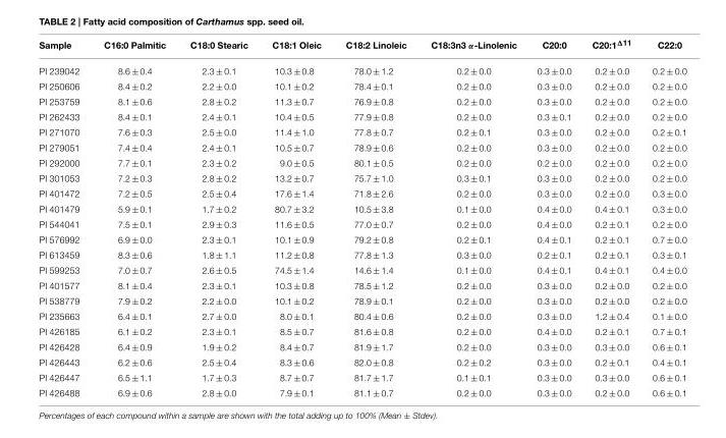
<table><thead><tr><td>Sample</td><td>C16:0 Palmitic</td><td>C18:0 Stearic</td><td>C18:1 Oleic</td><td>C18:2 Linoleic</td><td>C18:3n3 α-Linolenic</td><td>C20:0</td><td>C20:1<sup>Δ11</sup></td><td>C22:0</td></tr></thead><tbody><tr><td>PI 239042</td><td>8.6 ± 0.4</td><td>2.3 ± 0.1</td><td>10.3 ± 0.8</td><td>78.0 ± 1.2</td><td>0.2 ± 0.0</td><td>0.3 ± 0.0</td><td>0.2 ± 0.0</td><td>0.2 ± 0.0</td></tr><tr><td>PI 250606</td><td>8.4 ± 0.2</td><td>2.2 ± 0.0</td><td>10.1 ± 0.2</td><td>78.4 ± 0.1</td><td>0.2 ± 0.0</td><td>0.3 ± 0.0</td><td>0.2 ± 0.0</td><td>0.2 ± 0.0</td></tr><tr><td>PI 253759</td><td>8.1 ± 0.6</td><td>2.8 ± 0.2</td><td>11.3 ± 0.7</td><td>76.9 ± 0.8</td><td>0.2 ± 0.0</td><td>0.3 ± 0.0</td><td>0.2 ± 0.0</td><td>0.2 ± 0.0</td></tr><tr><td>PI 262433</td><td>8.4 ± 0.1</td><td>2.4 ± 0.1</td><td>10.4 ± 0.5</td><td>77.9 ± 0.8</td><td>0.2 ± 0.0</td><td>0.3 ± 0.1</td><td>0.2 ± 0.0</td><td>0.2 ± 0.0</td></tr><tr><td>PI 271070</td><td>7.6 ± 0.3</td><td>2.5 ± 0.0</td><td>11.4 ± 1.0</td><td>77.8 ± 0.7</td><td>0.2 ± 0.1</td><td>0.3 ± 0.0</td><td>0.2 ± 0.0</td><td>0.2 ± 0.1</td></tr><tr><td>PI 279051</td><td>7.4 ± 0.4</td><td>2.4 ± 0.1</td><td>10.5 ± 0.7</td><td>78.9 ± 0.6</td><td>0.2 ± 0.0</td><td>0.3 ± 0.0</td><td>0.2 ± 0.0</td><td>0.2 ± 0.0</td></tr><tr><td>PI 292000</td><td>7.7 ± 0.1</td><td>2.3 ± 0.2</td><td>9.0 ± 0.5</td><td>80.1 ± 0.5</td><td>0.2 ± 0.0</td><td>0.2 ± 0.0</td><td>0.2 ± 0.0</td><td>0.2 ± 0.0</td></tr><tr><td>PI 301053</td><td>7.2 ± 0.3</td><td>2.8 ± 0.2</td><td>13.2 ± 0.7</td><td>75.7 ± 1.0</td><td>0.3 ± 0.1</td><td>0.3 ± 0.0</td><td>0.2 ± 0.0</td><td>0.2 ± 0.0</td></tr><tr><td>PI 401472</td><td>7.2 ± 0.5</td><td>2.5 ± 0.4</td><td>17.6 ± 1.4</td><td>71.8 ± 2.6</td><td>0.2 ± 0.0</td><td>0.3 ± 0.0</td><td>0.2 ± 0.0</td><td>0.3 ± 0.0</td></tr><tr><td>PI 401479</td><td>5.9 ± 0.1</td><td>1.7 ± 0.2</td><td>80.7 ± 3.2</td><td>10.5 ± 3.8</td><td>0.1 ± 0.0</td><td>0.4 ± 0.0</td><td>0.4 ± 0.1</td><td>0.3 ± 0.0</td></tr><tr><td>PI 544041</td><td>7.5 ± 0.1</td><td>2.9 ± 0.3</td><td>11.6 ± 0.5</td><td>77.0 ± 0.7</td><td>0.2 ± 0.0</td><td>0.4 ± 0.0</td><td>0.2 ± 0.1</td><td>0.2 ± 0.0</td></tr><tr><td>PI 576992</td><td>6.9 ± 0.0</td><td>2.3 ± 0.1</td><td>10.1 ± 0.9</td><td>79.2 ± 0.8</td><td>0.2 ± 0.1</td><td>0.4 ± 0.1</td><td>0.2 ± 0.1</td><td>0.7 ± 0.0</td></tr><tr><td>PI 613459</td><td>8.3 ± 0.6</td><td>1.8 ± 1.1</td><td>11.2 ± 0.8</td><td>77.8 ± 1.3</td><td>0.3 ± 0.0</td><td>0.2 ± 0.1</td><td>0.2 ± 0.1</td><td>0.3 ± 0.1</td></tr><tr><td>PI 599253</td><td>7.0 ± 0.7</td><td>2.6 ± 0.5</td><td>74.5 ± 1.4</td><td>14.6 ± 1.4</td><td>0.1 ± 0.0</td><td>0.4 ± 0.1</td><td>0.4 ± 0.1</td><td>0.4 ± 0.0</td></tr><tr><td>PI 401577</td><td>8.1 ± 0.4</td><td>2.3 ± 0.1</td><td>10.3 ± 0.8</td><td>78.5 ± 1.2</td><td>0.2 ± 0.0</td><td>0.3 ± 0.0</td><td>0.2 ± 0.0</td><td>0.2 ± 0.0</td></tr><tr><td>PI 538779</td><td>7.9 ± 0.2</td><td>2.2 ± 0.0</td><td>10.1 ± 0.2</td><td>78.9 ± 0.1</td><td>0.2 ± 0.0</td><td>0.3 ± 0.0</td><td>0.2 ± 0.0</td><td>0.2 ± 0.0</td></tr><tr><td>PI 235663</td><td>6.4 ± 0.1</td><td>2.7 ± 0.0</td><td>8.0 ± 0.1</td><td>80.4 ± 0.6</td><td>0.2 ± 0.0</td><td>0.3 ± 0.0</td><td>1.2 ± 0.4</td><td>0.1 ± 0.0</td></tr><tr><td>PI 426185</td><td>6.1 ± 0.2</td><td>2.3 ± 0.1</td><td>8.5 ± 0.7</td><td>81.6 ± 0.8</td><td>0.2 ± 0.0</td><td>0.4 ± 0.0</td><td>0.2 ± 0.1</td><td>0.7 ± 0.1</td></tr><tr><td>PI 426428</td><td>6.4 ± 0.9</td><td>1.9 ± 0.2</td><td>8.4 ± 0.7</td><td>81.9 ± 1.7</td><td>0.2 ± 0.0</td><td>0.3 ± 0.0</td><td>0.3 ± 0.0</td><td>0.6 ± 0.1</td></tr><tr><td>PI 426443</td><td>6.2 ± 0.6</td><td>2.5 ± 0.4</td><td>8.3 ± 0.6</td><td>82.0 ± 0.8</td><td>0.2 ± 0.2</td><td>0.3 ± 0.0</td><td>0.2 ± 0.1</td><td>0.4 ± 0.1</td></tr><tr><td>PI 426447</td><td>6.5 ± 1.1</td><td>1.7 ± 0.3</td><td>8.7 ± 0.7</td><td>81.7 ± 1.7</td><td>0.1 ± 0.1</td><td>0.3 ± 0.0</td><td>0.3 ± 0.0</td><td>0.6 ± 0.1</td></tr><tr><td>PI 426488</td><td>6.9 ± 0.6</td><td>2.8 ± 0.0</td><td>7.9 ± 0.1</td><td>81.1 ± 0.7</td><td>0.2 ± 0.0</td><td>0.3 ± 0.0</td><td>0.2 ± 0.0</td><td>0.6 ± 0.1</td></tr></tbody></table>